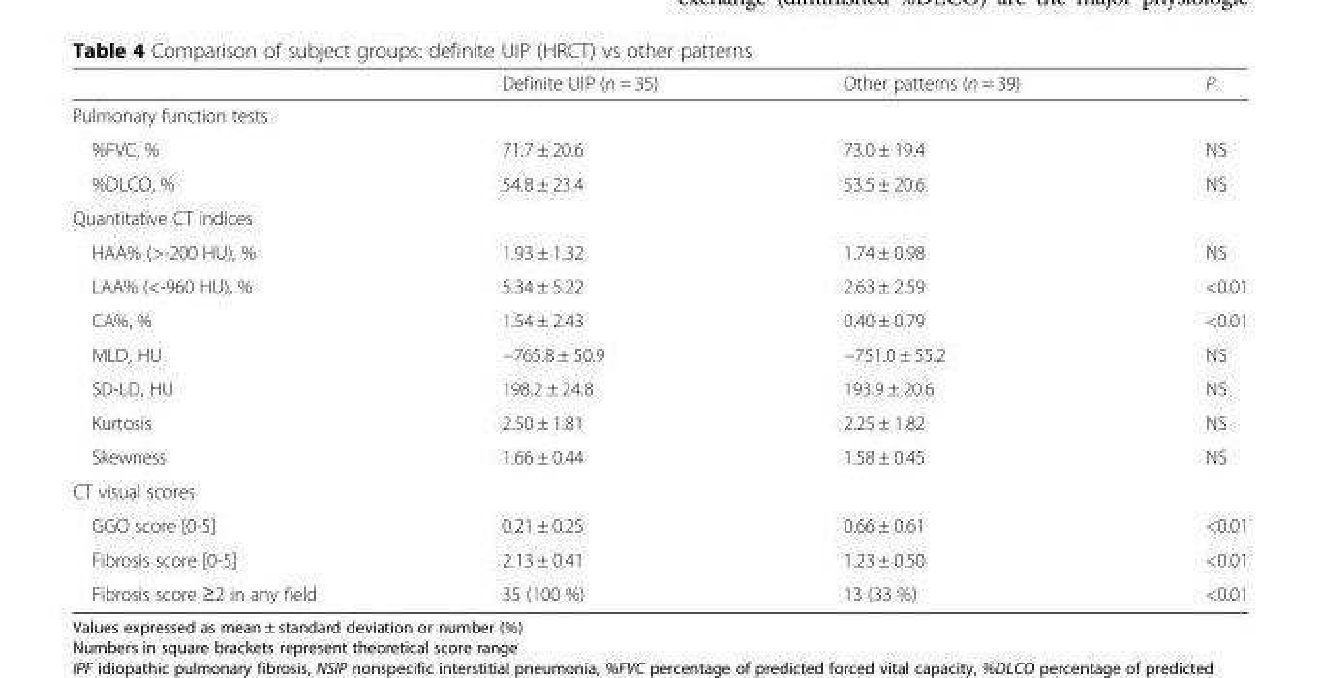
<table><thead><tr><td></td><td>Definite UIP (n = 35)</td><td>Other patterns (n = 39)</td><td>P</td></tr></thead><tbody><tr><td colspan="4">Pulmonary function tests</td></tr><tr><td>%FVC, %</td><td>71.7 ± 20.6</td><td>73.0 ± 19.4</td><td>NS</td></tr><tr><td>%DLCO, %</td><td>54.8 ± 23.4</td><td>53.5 ± 20.6</td><td>NS</td></tr><tr><td colspan="4">Quantitative CT indices</td></tr><tr><td>HAA% (&gt;-200 HU), %</td><td>1.93 ± 1.32</td><td>1.74 ± 0.98</td><td>NS</td></tr><tr><td>LAA% (&lt;-960 HU), %</td><td>5.34 ± 5.22</td><td>2.63 ± 2.59</td><td>&lt;0.01</td></tr><tr><td>CA%, %</td><td>1.54 ± 2.43</td><td>0.40 ± 0.79</td><td>&lt;0.01</td></tr><tr><td>MLD, HU</td><td>−765.8 ± 50.9</td><td>−751.0 ± 55.2</td><td>NS</td></tr><tr><td>SD-LD, HU</td><td>198.2 ± 24.8</td><td>193.9 ± 20.6</td><td>NS</td></tr><tr><td>Kurtosis</td><td>2.50 ± 1.81</td><td>2.25 ± 1.82</td><td>NS</td></tr><tr><td>Skewness</td><td>1.66 ± 0.44</td><td>1.58 ± 0.45</td><td>NS</td></tr><tr><td colspan="4">CT visual scores</td></tr><tr><td>GGO score [0-5]</td><td>0.21 ± 0.25</td><td>0.66 ± 0.61</td><td>&lt;0.01</td></tr><tr><td>Fibrosis score [0-5]</td><td>2.13 ± 0.41</td><td>1.23 ± 0.50</td><td>&lt;0.01</td></tr><tr><td>Fibrosis score ≥2 in any field</td><td>35 (100 %)</td><td>13 (33 %)</td><td>&lt;0.01</td></tr></tbody></table>